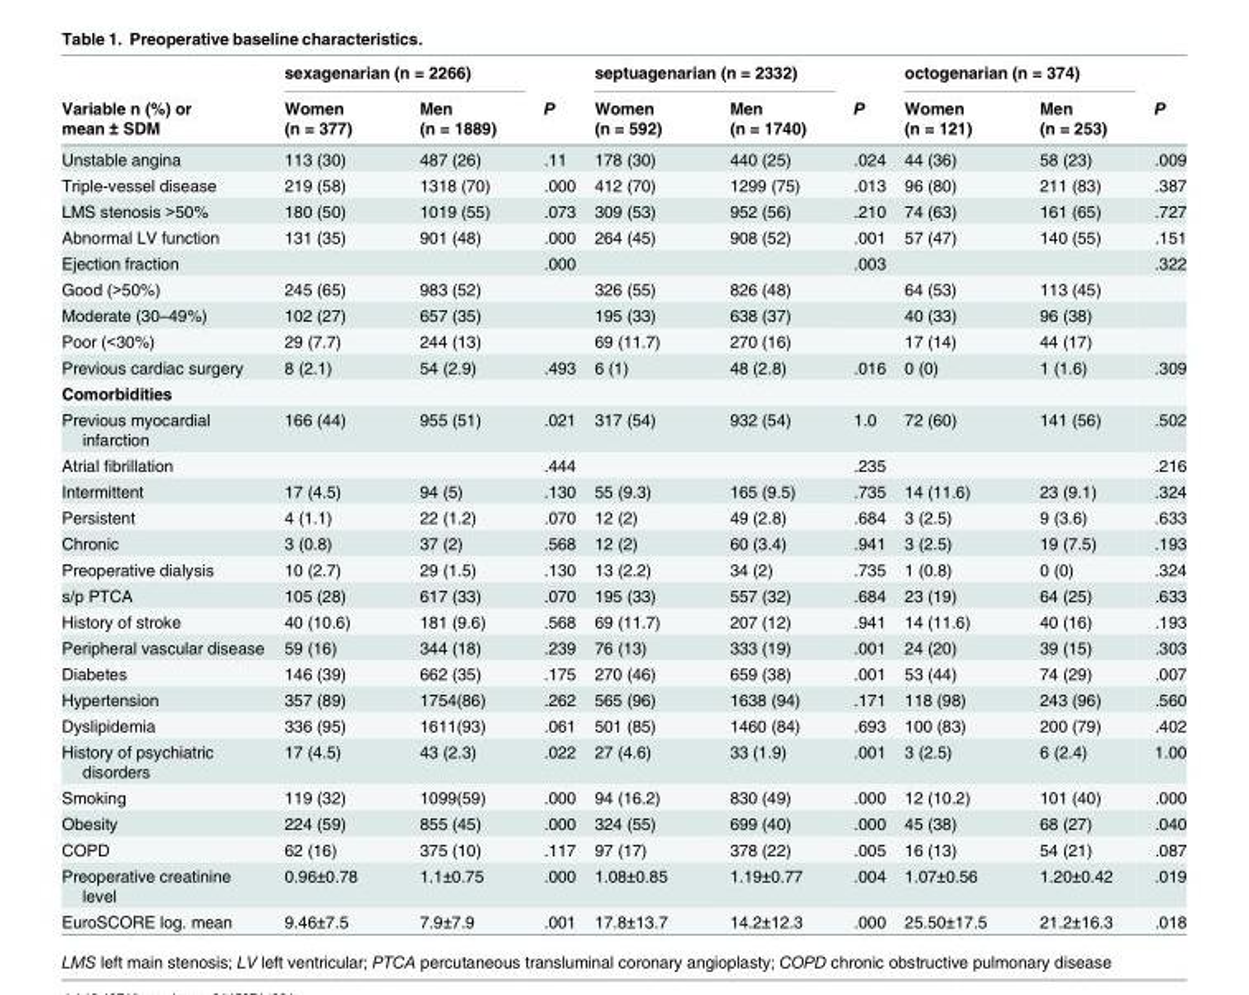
<table><thead><tr><td rowspan="2">Variable n (%) or mean ± SDM</td><td colspan="2">sexagenarian (n = 2266)</td><td rowspan="2">P</td><td colspan="2">septuagenarian (n = 2332)</td><td rowspan="2">P</td><td colspan="2">octogenarian (n = 374)</td><td rowspan="2">P</td></tr><tr><td>Women (n = 377)</td><td>Men (n = 1889)</td><td>Women (n = 592)</td><td>Men (n = 1740)</td><td>Women (n = 121)</td><td>Men (n = 253)</td></tr></thead><tbody><tr><td>Unstable angina</td><td>113 (30)</td><td>487 (26)</td><td>.11</td><td>178 (30)</td><td>440 (25)</td><td>.024</td><td>44 (36)</td><td>58 (23)</td><td>.009</td></tr><tr><td>Triple-vessel disease</td><td>219 (58)</td><td>1318 (70)</td><td>.000</td><td>412 (70)</td><td>1299 (75)</td><td>.013</td><td>96 (80)</td><td>211 (83)</td><td>.387</td></tr><tr><td>LMS stenosis &gt;50%</td><td>180 (50)</td><td>1019 (55)</td><td>.073</td><td>309 (53)</td><td>952 (56)</td><td>.210</td><td>74 (63)</td><td>161 (65)</td><td>.727</td></tr><tr><td>Abnormal LV function</td><td>131 (35)</td><td>901 (48)</td><td>.000</td><td>264 (45)</td><td>908 (52)</td><td>.001</td><td>57 (47)</td><td>140 (55)</td><td>.151</td></tr><tr><td>Ejection fraction</td><td></td><td></td><td>.000</td><td></td><td></td><td>.003</td><td></td><td></td><td>.322</td></tr><tr><td>Good (&gt;50%)</td><td>245 (65)</td><td>983 (52)</td><td></td><td>326 (55)</td><td>826 (48)</td><td></td><td>64 (53)</td><td>113 (45)</td><td></td></tr><tr><td>Moderate (30–49%)</td><td>102 (27)</td><td>657 (35)</td><td></td><td>195 (33)</td><td>638 (37)</td><td></td><td>40 (33)</td><td>96 (38)</td><td></td></tr><tr><td>Poor (&lt;30%)</td><td>29 (7.7)</td><td>244 (13)</td><td></td><td>69 (11.7)</td><td>270 (16)</td><td></td><td>17 (14)</td><td>44 (17)</td><td></td></tr><tr><td>Previous cardiac surgery</td><td>8 (2.1)</td><td>54 (2.9)</td><td>.493</td><td>6 (1)</td><td>48 (2.8)</td><td>.016</td><td>0 (0)</td><td>1 (1.6)</td><td>.309</td></tr><tr><td colspan="10">Comorbidities</td></tr><tr><td>Previous myocardial infarction</td><td>166 (44)</td><td>955 (51)</td><td>.021</td><td>317 (54)</td><td>932 (54)</td><td>1.0</td><td>72 (60)</td><td>141 (56)</td><td>.502</td></tr><tr><td>Atrial fibrillation</td><td></td><td></td><td>.444</td><td></td><td></td><td>.235</td><td></td><td></td><td>.216</td></tr><tr><td>Intermittent</td><td>17 (4.5)</td><td>94 (5)</td><td>.130</td><td>55 (9.3)</td><td>165 (9.5)</td><td>.735</td><td>14 (11.6)</td><td>23 (9.1)</td><td>.324</td></tr><tr><td>Persistent</td><td>4 (1.1)</td><td>22 (1.2)</td><td>.070</td><td>12 (2)</td><td>49 (2.8)</td><td>.684</td><td>3 (2.5)</td><td>9 (3.6)</td><td>.633</td></tr><tr><td>Chronic</td><td>3 (0.8)</td><td>37 (2)</td><td>.568</td><td>12 (2)</td><td>60 (3.4)</td><td>.941</td><td>3 (2.5)</td><td>19 (7.5)</td><td>.193</td></tr><tr><td>Preoperative dialysis</td><td>10 (2.7)</td><td>29 (1.5)</td><td>.130</td><td>13 (2.2)</td><td>34 (2)</td><td>.735</td><td>1 (0.8)</td><td>0 (0)</td><td>.324</td></tr><tr><td>s/p PTCA</td><td>105 (28)</td><td>617 (33)</td><td>.070</td><td>195 (33)</td><td>557 (32)</td><td>.684</td><td>23 (19)</td><td>64 (25)</td><td>.633</td></tr><tr><td>History of stroke</td><td>40 (10.6)</td><td>181 (9.6)</td><td>.568</td><td>69 (11.7)</td><td>207 (12)</td><td>.941</td><td>14 (11.6)</td><td>40 (16)</td><td>.193</td></tr><tr><td>Peripheral vascular disease</td><td>59 (16)</td><td>344 (18)</td><td>.239</td><td>76 (13)</td><td>333 (19)</td><td>.001</td><td>24 (20)</td><td>39 (15)</td><td>.303</td></tr><tr><td>Diabetes</td><td>146 (39)</td><td>662 (35)</td><td>.175</td><td>270 (46)</td><td>659 (38)</td><td>.001</td><td>53 (44)</td><td>74 (29)</td><td>.007</td></tr><tr><td>Hypertension</td><td>357 (89)</td><td>1754(86)</td><td>.262</td><td>565 (96)</td><td>1638 (94)</td><td>.171</td><td>118 (98)</td><td>243 (96)</td><td>.560</td></tr><tr><td>Dyslipidemia</td><td>336 (95)</td><td>1611(93)</td><td>.061</td><td>501 (85)</td><td>1460 (84)</td><td>.693</td><td>100 (83)</td><td>200 (79)</td><td>.402</td></tr><tr><td>History of psychiatric disorders</td><td>17 (4.5)</td><td>43 (2.3)</td><td>.022</td><td>27 (4.6)</td><td>33 (1.9)</td><td>.001</td><td>3 (2.5)</td><td>6 (2.4)</td><td>1.00</td></tr><tr><td>Smoking</td><td>119 (32)</td><td>1099(59)</td><td>.000</td><td>94 (16.2)</td><td>830 (49)</td><td>.000</td><td>12 (10.2)</td><td>101 (40)</td><td>.000</td></tr><tr><td>Obesity</td><td>224 (59)</td><td>855 (45)</td><td>.000</td><td>324 (55)</td><td>699 (40)</td><td>.000</td><td>45 (38)</td><td>68 (27)</td><td>.040</td></tr><tr><td>COPD</td><td>62 (16)</td><td>375 (10)</td><td>.117</td><td>97 (17)</td><td>378 (22)</td><td>.005</td><td>16 (13)</td><td>54 (21)</td><td>.087</td></tr><tr><td>Preoperative creatinine level</td><td>0.96±0.78</td><td>1.1±0.75</td><td>.000</td><td>1.08±0.85</td><td>1.19±0.77</td><td>.004</td><td>1.07±0.56</td><td>1.20±0.42</td><td>.019</td></tr><tr><td>EuroSCORE log. mean</td><td>9.46±7.5</td><td>7.9±7.9</td><td>.001</td><td>17.8±13.7</td><td>14.2±12.3</td><td>.000</td><td>25.50±17.5</td><td>21.2±16.3</td><td>.018</td></tr></tbody></table>